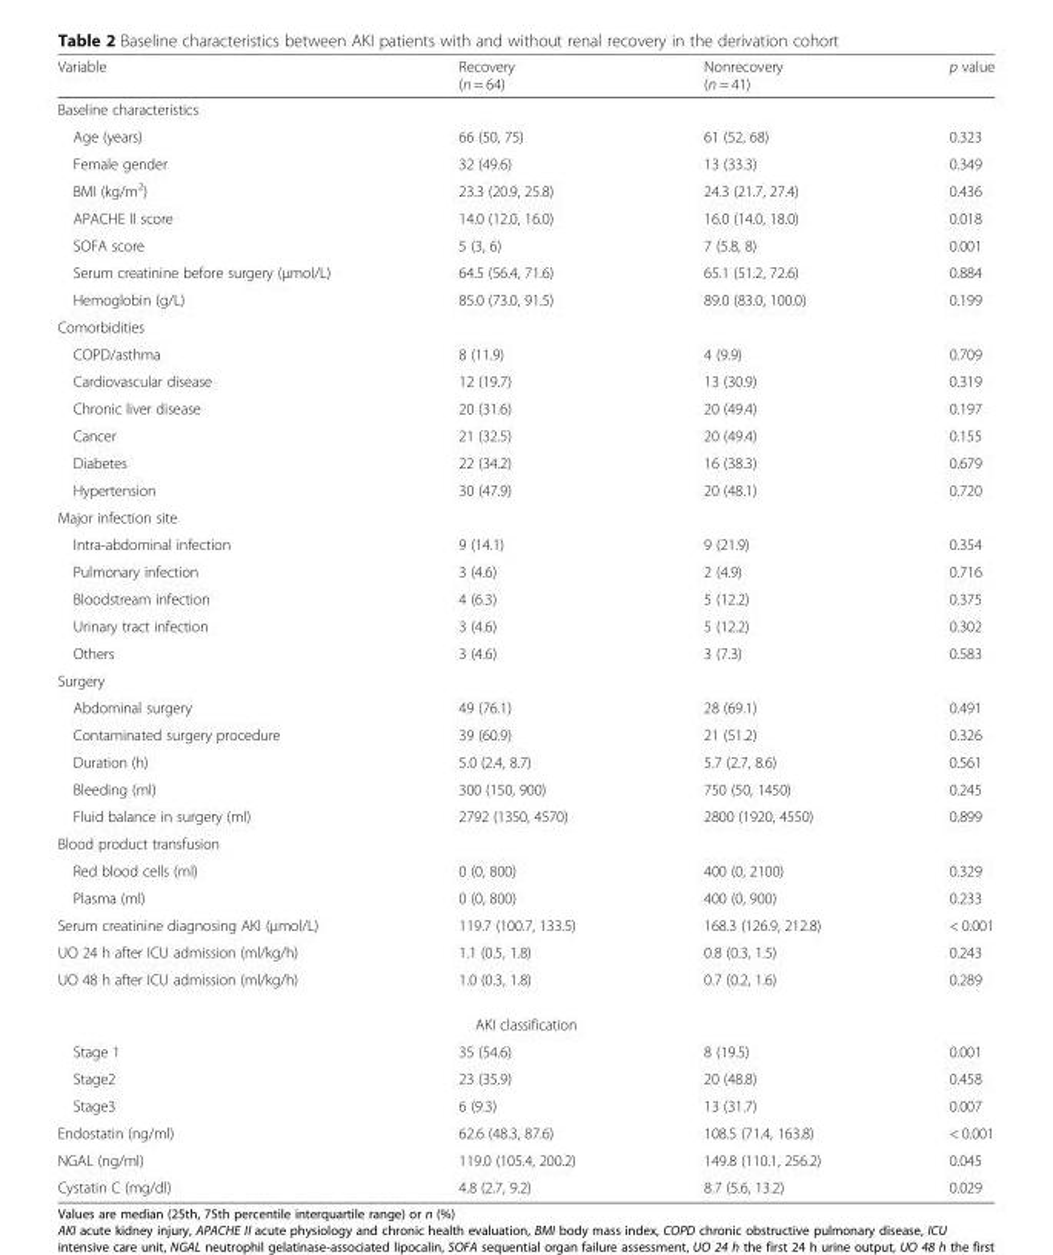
<table><thead><tr><td>Variable</td><td>Recovery (n = 64)</td><td>Nonrecovery (n = 41)</td><td>p value</td></tr></thead><tbody><tr><td colspan="4">Baseline characteristics</td></tr><tr><td>Age (years)</td><td>66 (50, 75)</td><td>61 (52, 68)</td><td>0.323</td></tr><tr><td>Female gender</td><td>32 (49.6)</td><td>13 (33.3)</td><td>0.349</td></tr><tr><td>BMI (kg/m<sup>2</sup>)</td><td>23.3 (20.9, 25.8)</td><td>24.3 (21.7, 27.4)</td><td>0.436</td></tr><tr><td>APACHE II score</td><td>14.0 (12.0, 16.0)</td><td>16.0 (14.0, 18.0)</td><td>0.018</td></tr><tr><td>SOFA score</td><td>5 (3, 6)</td><td>7 (5.8, 8)</td><td>0.001</td></tr><tr><td>Serum creatinine before surgery (μmol/L)</td><td>64.5 (56.4, 71.6)</td><td>65.1 (51.2, 72.6)</td><td>0.884</td></tr><tr><td>Hemoglobin (g/L)</td><td>85.0 (73.0, 91.5)</td><td>89.0 (83.0, 100.0)</td><td>0.199</td></tr><tr><td colspan="4">Comorbidities</td></tr><tr><td>COPD/asthma</td><td>8 (11.9)</td><td>4 (9.9)</td><td>0.709</td></tr><tr><td>Cardiovascular disease</td><td>12 (19.7)</td><td>13 (30.9)</td><td>0.319</td></tr><tr><td>Chronic liver disease</td><td>20 (31.6)</td><td>20 (49.4)</td><td>0.197</td></tr><tr><td>Cancer</td><td>21 (32.5)</td><td>20 (49.4)</td><td>0.155</td></tr><tr><td>Diabetes</td><td>22 (34.2)</td><td>16 (38.3)</td><td>0.679</td></tr><tr><td>Hypertension</td><td>30 (47.9)</td><td>20 (48.1)</td><td>0.720</td></tr><tr><td colspan="4">Major infection site</td></tr><tr><td>Intra-abdominal infection</td><td>9 (14.1)</td><td>9 (21.9)</td><td>0.354</td></tr><tr><td>Pulmonary infection</td><td>3 (4.6)</td><td>2 (4.9)</td><td>0.716</td></tr><tr><td>Bloodstream infection</td><td>4 (6.3)</td><td>5 (12.2)</td><td>0.375</td></tr><tr><td>Urinary tract infection</td><td>3 (4.6)</td><td>5 (12.2)</td><td>0.302</td></tr><tr><td>Others</td><td>3 (4.6)</td><td>3 (7.3)</td><td>0.583</td></tr><tr><td colspan="4">Surgery</td></tr><tr><td>Abdominal surgery</td><td>49 (76.1)</td><td>28 (69.1)</td><td>0.491</td></tr><tr><td>Contaminated surgery procedure</td><td>39 (60.9)</td><td>21 (51.2)</td><td>0.326</td></tr><tr><td>Duration (h)</td><td>5.0 (2.4, 8.7)</td><td>5.7 (2.7, 8.6)</td><td>0.561</td></tr><tr><td>Bleeding (ml)</td><td>300 (150, 900)</td><td>750 (50, 1450)</td><td>0.245</td></tr><tr><td>Fluid balance in surgery (ml)</td><td>2792 (1350, 4570)</td><td>2800 (1920, 4550)</td><td>0.899</td></tr><tr><td colspan="4">Blood product transfusion</td></tr><tr><td>Red blood cells (ml)</td><td>0 (0, 800)</td><td>400 (0, 2100)</td><td>0.329</td></tr><tr><td>Plasma (ml)</td><td>0 (0, 800)</td><td>400 (0, 900)</td><td>0.233</td></tr><tr><td>Serum creatinine diagnosing AKI (μmol/L)</td><td>119.7 (100.7, 133.5)</td><td>168.3 (126.9, 212.8)</td><td>&lt; 0.001</td></tr><tr><td>UO 24 h after ICU admission (ml/kg/h)</td><td>1.1 (0.5, 1.8)</td><td>0.8 (0.3, 1.5)</td><td>0.243</td></tr><tr><td>UO 48 h after ICU admission (ml/kg/h)</td><td>1.0 (0.3, 1.8)</td><td>0.7 (0.2, 1.6)</td><td>0.289</td></tr><tr><td colspan="4">AKI classification</td></tr><tr><td>Stage 1</td><td>35 (54.6)</td><td>8 (19.5)</td><td>0.001</td></tr><tr><td>Stage2</td><td>23 (35.9)</td><td>20 (48.8)</td><td>0.458</td></tr><tr><td>Stage3</td><td>6 (9.3)</td><td>13 (31.7)</td><td>0.007</td></tr><tr><td>Endostatin (ng/ml)</td><td>62.6 (48.3, 87.6)</td><td>108.5 (71.4, 163.8)</td><td>&lt; 0.001</td></tr><tr><td>NGAL (ng/ml)</td><td>119.0 (105.4, 200.2)</td><td>149.8 (110.1, 256.2)</td><td>0.045</td></tr><tr><td>Cystatin C (mg/dl)</td><td>4.8 (2.7, 9.2)</td><td>8.7 (5.6, 13.2)</td><td>0.029</td></tr></tbody></table>